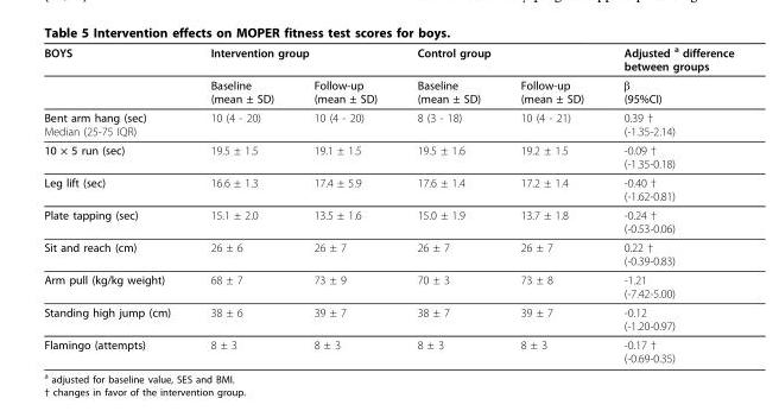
<table><thead><tr><td rowspan="2">BOYS</td><td colspan="2">Intervention group</td><td colspan="2">Control group</td><td rowspan="2">Adjusted <sup>a</sup> difference between groups β (95%CI)</td></tr><tr><td>Baseline (mean ± SD)</td><td>Follow-up (mean ± SD)</td><td>Baseline (mean ± SD)</td><td>Follow-up (mean ± SD)</td></tr></thead><tbody><tr><td>Bent arm hang (sec) Median (25-75 IQR)</td><td>10 (4 - 20)</td><td>10 (4 - 20)</td><td>8 (3 - 18)</td><td>10 (4 - 21)</td><td>0.39 † (-1.35-2.14)</td></tr><tr><td>10 × 5 run (sec)</td><td>19.5 ± 1.5</td><td>19.1 ± 1.5</td><td>19.5 ± 1.6</td><td>19.2 ± 1.5</td><td>-0.09 † (-1.35-0.18)</td></tr><tr><td>Leg lift (sec)</td><td>16.6 ± 1.3</td><td>17.4 ± 5.9</td><td>17.6 ± 1.4</td><td>17.2 ± 1.4</td><td>-0.40 † (-1.62-0.81)</td></tr><tr><td>Plate tapping (sec)</td><td>15.1 ± 2.0</td><td>13.5 ± 1.6</td><td>15.0 ± 1.9</td><td>13.7 ± 1.8</td><td>-0.24 † (-0.53-0.06)</td></tr><tr><td>Sit and reach (cm)</td><td>26 ± 6</td><td>26 ± 7</td><td>26 ± 7</td><td>26 ± 7</td><td>0.22 † (-0.39-0.83)</td></tr><tr><td>Arm pull (kg/kg weight)</td><td>68 ± 7</td><td>73 ± 9</td><td>70 ± 3</td><td>73 ± 8</td><td>-1.21 (-7.42-5.00)</td></tr><tr><td>Standing high jump (cm)</td><td>38 ± 6</td><td>39 ± 7</td><td>38 ± 7</td><td>39 ± 7</td><td>-0.12 (-1.20-0.97)</td></tr><tr><td>Flamingo (attempts)</td><td>8 ± 3</td><td>8 ± 3</td><td>8 ± 3</td><td>8 ± 3</td><td>-0.17 † (-0.69-0.35)</td></tr></tbody></table>